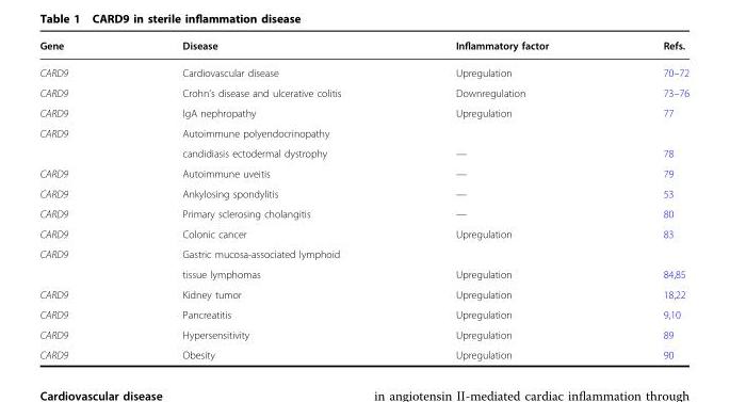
<table><thead><tr><td>Gene</td><td>Disease</td><td>Inflammatory factor</td><td>Refs.</td></tr></thead><tbody><tr><td>CARD9</td><td>Cardiovascular disease</td><td>Upregulation</td><td>70–72</td></tr><tr><td>CARD9</td><td>Crohn’s disease and ulcerative colitis</td><td>Downregulation</td><td>73–76</td></tr><tr><td>CARD9</td><td>IgA nephropathy</td><td>Upregulation</td><td>77</td></tr><tr><td rowspan="2">CARD9</td><td>Autoimmune polyendocrinopathy</td><td></td><td></td></tr><tr><td>candidiasis ectodermal dystrophy</td><td>—</td><td>78</td></tr><tr><td>CARD9</td><td>Autoimmune uveitis</td><td>—</td><td>79</td></tr><tr><td>CARD9</td><td>Ankylosing spondylitis</td><td>—</td><td>53</td></tr><tr><td>CARD9</td><td>Primary sclerosing cholangitis</td><td>—</td><td>80</td></tr><tr><td>CARD9</td><td>Colonic cancer</td><td>Upregulation</td><td>83</td></tr><tr><td rowspan="2">CARD9</td><td>Gastric mucosa-associated lymphoid</td><td></td><td></td></tr><tr><td>tissue lymphomas</td><td>Upregulation</td><td>84,85</td></tr><tr><td>CARD9</td><td>Kidney tumor</td><td>Upregulation</td><td>18,22</td></tr><tr><td>CARD9</td><td>Pancreatitis</td><td>Upregulation</td><td>9,10</td></tr><tr><td>CARD9</td><td>Hypersensitivity</td><td>Upregulation</td><td>89</td></tr><tr><td>CARD9</td><td>Obesity</td><td>Upregulation</td><td>90</td></tr></tbody></table>